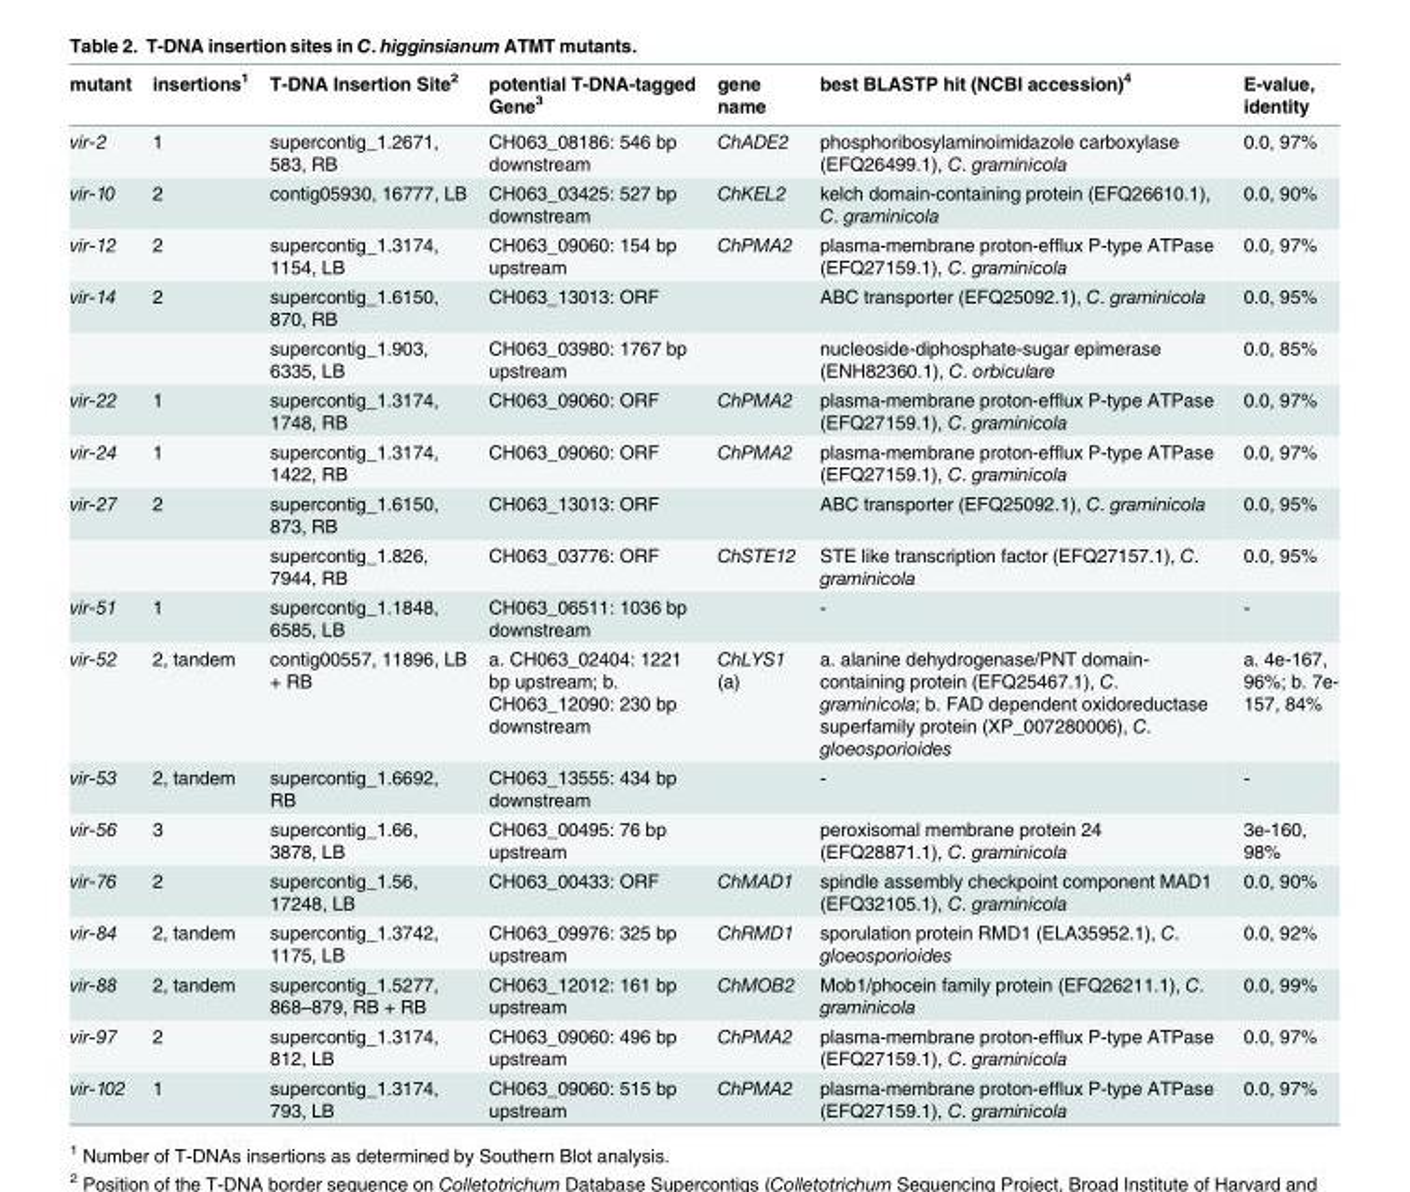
<table><thead><tr><td>mutant</td><td>insertions<sup>1</sup></td><td>T-DNA Insertion Site<sup>2</sup></td><td>potential T-DNA-tagged Gene<sup>3</sup></td><td>gene name</td><td>best BLASTP hit (NCBI accession)<sup>4</sup></td><td>E-value, identity</td></tr></thead><tbody><tr><td>vir-2</td><td>1</td><td>supercontig_1.2671, 583, RB</td><td>CH063_08186: 546 bp downstream</td><td>ChADE2</td><td>phosphoribosylaminoimidazole carboxylase (EFQ26499.1), C. graminicola</td><td>0.0, 97%</td></tr><tr><td>vir-10</td><td>2</td><td>contig05930, 16777, LB</td><td>CH063_03425: 527 bp downstream</td><td>ChKEL2</td><td>kelch domain-containing protein (EFQ26610.1), C. graminicola</td><td>0.0, 90%</td></tr><tr><td>vir-12</td><td>2</td><td>supercontig_1.3174, 1154, LB</td><td>CH063_09060: 154 bp upstream</td><td>ChPMA2</td><td>plasma-membrane proton-efflux P-type ATPase (EFQ27159.1), C. graminicola</td><td>0.0, 97%</td></tr><tr><td rowspan="2">vir-14</td><td>2</td><td>supercontig_1.6150, 870, RB</td><td>CH063_13013: ORF</td><td></td><td>ABC transporter (EFQ25092.1), C. graminicola</td><td>0.0, 95%</td></tr><tr><td></td><td>supercontig_1.903, 6335, LB</td><td>CH063_03980: 1767 bp upstream</td><td></td><td>nucleoside-diphosphate-sugar epimerase (ENH82360.1), C. orbiculare</td><td>0.0, 85%</td></tr><tr><td>vir-22</td><td>1</td><td>supercontig_1.3174, 1748, RB</td><td>CH063_09060: ORF</td><td>ChPMA2</td><td>plasma-membrane proton-efflux P-type ATPase (EFQ27159.1), C. graminicola</td><td>0.0, 97%</td></tr><tr><td>vir-24</td><td>1</td><td>supercontig_1.3174, 1422, RB</td><td>CH063_09060: ORF</td><td>ChPMA2</td><td>plasma-membrane proton-efflux P-type ATPase (EFQ27159.1), C. graminicola</td><td>0.0, 97%</td></tr><tr><td rowspan="2">vir-27</td><td>2</td><td>supercontig_1.6150, 873, RB</td><td>CH063_13013: ORF</td><td></td><td>ABC transporter (EFQ25092.1), C. graminicola</td><td>0.0, 95%</td></tr><tr><td></td><td>supercontig_1.826, 7944, RB</td><td>CH063_03776: ORF</td><td>ChSTE12</td><td>STE like transcription factor (EFQ27157.1), C. graminicola</td><td>0.0, 95%</td></tr><tr><td>vir-51</td><td>1</td><td>supercontig_1.1848, 6585, LB</td><td>CH063_06511: 1036 bp downstream</td><td></td><td>-</td><td>-</td></tr><tr><td>vir-52</td><td>2, tandem</td><td>contig00557, 11896, LB + RB</td><td>a. CH063_02404: 1221 bp upstream; b. CH063_12090: 230 bp downstream</td><td>ChLYS1 (a)</td><td>a. alanine dehydrogenase/PNT domain- containing protein (EFQ25467.1), C. graminicola; b. FAD dependent oxidoreductase superfamily protein (XP_007280006), C. gloeosporioides</td><td>a. 4e-167, 96%; b. 7e- 157, 84%</td></tr><tr><td>vir-53</td><td>2, tandem</td><td>supercontig_1.6692, RB</td><td>CH063_13555: 434 bp downstream</td><td></td><td>-</td><td>-</td></tr><tr><td>vir-56</td><td>3</td><td>supercontig_1.66, 3878, LB</td><td>CH063_00495: 76 bp upstream</td><td></td><td>peroxisomal membrane protein 24 (EFQ28871.1), C. graminicola</td><td>3e-160, 98%</td></tr><tr><td>vir-76</td><td>2</td><td>supercontig_1.56, 17248, LB</td><td>CH063_00433: ORF</td><td>ChMAD1</td><td>spindle assembly checkpoint component MAD1 (EFQ32105.1), C. graminicola</td><td>0.0, 90%</td></tr><tr><td>vir-84</td><td>2, tandem</td><td>supercontig_1.3742, 1175, LB</td><td>CH063_09976: 325 bp upstream</td><td>ChRMD1</td><td>sporulation protein RMD1 (ELA35952.1), C. gloeosporioides</td><td>0.0, 92%</td></tr><tr><td>vir-88</td><td>2, tandem</td><td>supercontig_1.5277, 868–879, RB + RB</td><td>CH063_12012: 161 bp upstream</td><td>ChMOB2</td><td>Mob1/phocein family protein (EFQ26211.1), C. graminicola</td><td>0.0, 99%</td></tr><tr><td>vir-97</td><td>2</td><td>supercontig_1.3174, 812, LB</td><td>CH063_09060: 496 bp upstream</td><td>ChPMA2</td><td>plasma-membrane proton-efflux P-type ATPase (EFQ27159.1), C. graminicola</td><td>0.0, 97%</td></tr><tr><td>vir-102</td><td>1</td><td>supercontig_1.3174, 793, LB</td><td>CH063_09060: 515 bp upstream</td><td>ChPMA2</td><td>plasma-membrane proton-efflux P-type ATPase (EFQ27159.1), C. graminicola</td><td>0.0, 97%</td></tr></tbody></table>